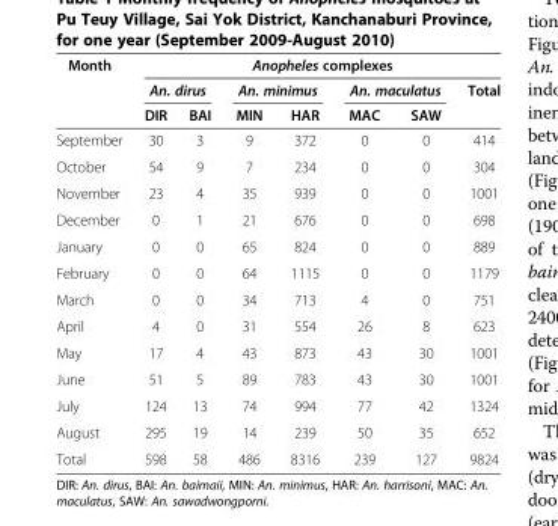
<table><thead><tr><td rowspan="3">Month</td><td colspan="7">Anopheles complexes</td></tr><tr><td colspan="2">An. dirus</td><td colspan="2">An. minimus</td><td colspan="2">An. maculatus</td><td rowspan="2">Total</td></tr><tr><td>DIR</td><td>BAI</td><td>MIN</td><td>HAR</td><td>MAC</td><td>SAW</td></tr></thead><tbody><tr><td>September</td><td>30</td><td>3</td><td>9</td><td>372</td><td>0</td><td>0</td><td>414</td></tr><tr><td>October</td><td>54</td><td>9</td><td>7</td><td>234</td><td>0</td><td>0</td><td>304</td></tr><tr><td>November</td><td>23</td><td>4</td><td>35</td><td>939</td><td>0</td><td>0</td><td>1001</td></tr><tr><td>December</td><td>0</td><td>1</td><td>21</td><td>676</td><td>0</td><td>0</td><td>698</td></tr><tr><td>January</td><td>0</td><td>0</td><td>65</td><td>824</td><td>0</td><td>0</td><td>889</td></tr><tr><td>February</td><td>0</td><td>0</td><td>64</td><td>1115</td><td>0</td><td>0</td><td>1179</td></tr><tr><td>March</td><td>0</td><td>0</td><td>34</td><td>713</td><td>4</td><td>0</td><td>751</td></tr><tr><td>April</td><td>4</td><td>0</td><td>31</td><td>554</td><td>26</td><td>8</td><td>623</td></tr><tr><td>May</td><td>17</td><td>4</td><td>43</td><td>873</td><td>43</td><td>30</td><td>1001</td></tr><tr><td>June</td><td>51</td><td>5</td><td>89</td><td>783</td><td>43</td><td>30</td><td>1001</td></tr><tr><td>July</td><td>124</td><td>13</td><td>74</td><td>994</td><td>77</td><td>42</td><td>1324</td></tr><tr><td>August</td><td>295</td><td>19</td><td>14</td><td>239</td><td>50</td><td>35</td><td>652</td></tr><tr><td>Total</td><td>598</td><td>58</td><td>486</td><td>8316</td><td>239</td><td>127</td><td>9824</td></tr></tbody></table>